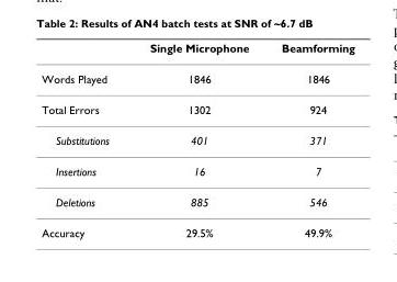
<table><thead><tr><td></td><td>Single Microphone</td><td>Beamforming</td></tr></thead><tbody><tr><td>Words Played</td><td>1846</td><td>1846</td></tr><tr><td>Total Errors</td><td>1302</td><td>924</td></tr><tr><td>Substitutions</td><td>401</td><td>371</td></tr><tr><td>Insertions</td><td>16</td><td>7</td></tr><tr><td>Deletions</td><td>885</td><td>546</td></tr><tr><td>Accuracy</td><td>29.5%</td><td>49.9%</td></tr></tbody></table>